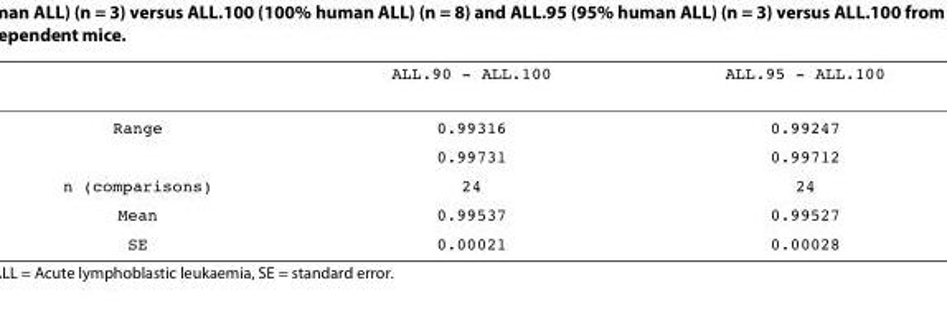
<table><thead><tr><td></td><td>ALL.90 - ALL.100</td><td>ALL.95 - ALL.100</td></tr></thead><tbody><tr><td rowspan="2">Range</td><td>0.99316</td><td>0.99247</td></tr><tr><td>0.99731</td><td>0.99712</td></tr><tr><td>n (comparisons)</td><td>24</td><td>24</td></tr><tr><td>Mean</td><td>0.99537</td><td>0.99527</td></tr><tr><td>SE</td><td>0.00021</td><td>0.00028</td></tr></tbody></table>